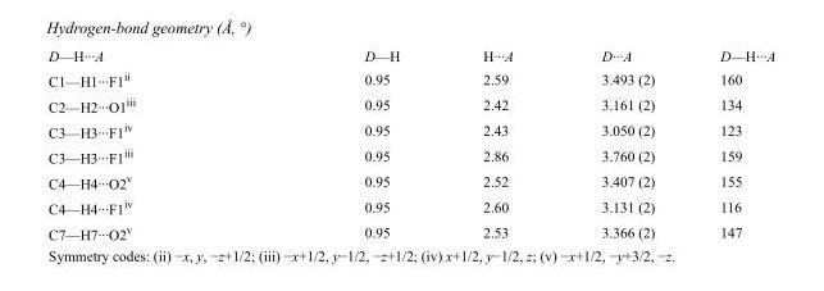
<table><tbody><tr><td>D—H···A</td><td>D—H</td><td>H···A</td><td>D···A</td><td>D—H···A</td></tr><tr><td>C1—H1···F1<sup>ii</sup></td><td>0.95</td><td>2.59</td><td>3.493 (2)</td><td>160</td></tr><tr><td>C2—H2···O1<sup>iii</sup></td><td>0.95</td><td>2.42</td><td>3.161 (2)</td><td>134</td></tr><tr><td>C3—H3···F1<sup>iv</sup></td><td>0.95</td><td>2.43</td><td>3.050 (2)</td><td>123</td></tr><tr><td>C3—H3···F1<sup>iii</sup></td><td>0.95</td><td>2.86</td><td>3.760 (2)</td><td>159</td></tr><tr><td>C4—H4···O2<sup>v</sup></td><td>0.95</td><td>2.52</td><td>3.407 (2)</td><td>155</td></tr><tr><td>C4—H4···F1<sup>iv</sup></td><td>0.95</td><td>2.60</td><td>3.131 (2)</td><td>116</td></tr><tr><td>C7—H7···O2<sup>v</sup></td><td>0.95</td><td>2.53</td><td>3.366 (2)</td><td>147</td></tr></tbody></table>